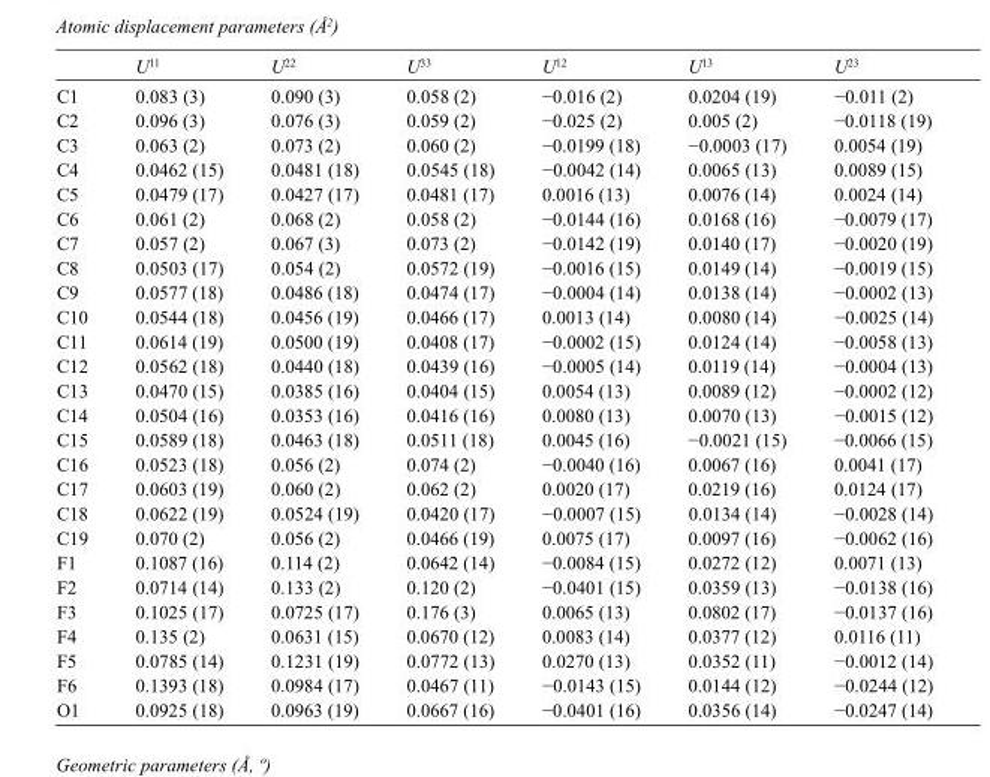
<table><thead><tr><td></td><td>U<sup>11</sup></td><td>U<sup>22</sup></td><td>U<sup>33</sup></td><td>U<sup>12</sup></td><td>U<sup>13</sup></td><td>U<sup>23</sup></td></tr></thead><tbody><tr><td>C1</td><td>0.083 (3)</td><td>0.090 (3)</td><td>0.058 (2)</td><td>−0.016 (2)</td><td>0.0204 (19)</td><td>−0.011 (2)</td></tr><tr><td>C2</td><td>0.096 (3)</td><td>0.076 (3)</td><td>0.059 (2)</td><td>−0.025 (2)</td><td>0.005 (2)</td><td>−0.0118 (19)</td></tr><tr><td>C3</td><td>0.063 (2)</td><td>0.073 (2)</td><td>0.060 (2)</td><td>−0.0199 (18)</td><td>−0.0003 (17)</td><td>0.0054 (19)</td></tr><tr><td>C4</td><td>0.0462 (15)</td><td>0.0481 (18)</td><td>0.0545 (18)</td><td>−0.0042 (14)</td><td>0.0065 (13)</td><td>0.0089 (15)</td></tr><tr><td>C5</td><td>0.0479 (17)</td><td>0.0427 (17)</td><td>0.0481 (17)</td><td>0.0016 (13)</td><td>0.0076 (14)</td><td>0.0024 (14)</td></tr><tr><td>C6</td><td>0.061 (2)</td><td>0.068 (2)</td><td>0.058 (2)</td><td>−0.0144 (16)</td><td>0.0168 (16)</td><td>−0.0079 (17)</td></tr><tr><td>C7</td><td>0.057 (2)</td><td>0.067 (3)</td><td>0.073 (2)</td><td>−0.0142 (19)</td><td>0.0140 (17)</td><td>−0.0020 (19)</td></tr><tr><td>C8</td><td>0.0503 (17)</td><td>0.054 (2)</td><td>0.0572 (19)</td><td>−0.0016 (15)</td><td>0.0149 (14)</td><td>−0.0019 (15)</td></tr><tr><td>C9</td><td>0.0577 (18)</td><td>0.0486 (18)</td><td>0.0474 (17)</td><td>−0.0004 (14)</td><td>0.0138 (14)</td><td>−0.0002 (13)</td></tr><tr><td>C10</td><td>0.0544 (18)</td><td>0.0456 (19)</td><td>0.0466 (17)</td><td>0.0013 (14)</td><td>0.0080 (14)</td><td>−0.0025 (14)</td></tr><tr><td>C11</td><td>0.0614 (19)</td><td>0.0500 (19)</td><td>0.0408 (17)</td><td>−0.0002 (15)</td><td>0.0124 (14)</td><td>−0.0058 (13)</td></tr><tr><td>C12</td><td>0.0562 (18)</td><td>0.0440 (18)</td><td>0.0439 (16)</td><td>−0.0005 (14)</td><td>0.0119 (14)</td><td>−0.0004 (13)</td></tr><tr><td>C13</td><td>0.0470 (15)</td><td>0.0385 (16)</td><td>0.0404 (15)</td><td>0.0054 (13)</td><td>0.0089 (12)</td><td>−0.0002 (12)</td></tr><tr><td>C14</td><td>0.0504 (16)</td><td>0.0353 (16)</td><td>0.0416 (16)</td><td>0.0080 (13)</td><td>0.0070 (13)</td><td>−0.0015 (12)</td></tr><tr><td>C15</td><td>0.0589 (18)</td><td>0.0463 (18)</td><td>0.0511 (18)</td><td>0.0045 (16)</td><td>−0.0021 (15)</td><td>−0.0066 (15)</td></tr><tr><td>C16</td><td>0.0523 (18)</td><td>0.056 (2)</td><td>0.074 (2)</td><td>−0.0040 (16)</td><td>0.0067 (16)</td><td>0.0041 (17)</td></tr><tr><td>C17</td><td>0.0603 (19)</td><td>0.060 (2)</td><td>0.062 (2)</td><td>0.0020 (17)</td><td>0.0219 (16)</td><td>0.0124 (17)</td></tr><tr><td>C18</td><td>0.0622 (19)</td><td>0.0524 (19)</td><td>0.0420 (17)</td><td>−0.0007 (15)</td><td>0.0134 (14)</td><td>−0.0028 (14)</td></tr><tr><td>C19</td><td>0.070 (2)</td><td>0.056 (2)</td><td>0.0466 (19)</td><td>0.0075 (17)</td><td>0.0097 (16)</td><td>−0.0062 (16)</td></tr><tr><td>F1</td><td>0.1087 (16)</td><td>0.114 (2)</td><td>0.0642 (14)</td><td>−0.0084 (15)</td><td>0.0272 (12)</td><td>0.0071 (13)</td></tr><tr><td>F2</td><td>0.0714 (14)</td><td>0.133 (2)</td><td>0.120 (2)</td><td>−0.0401 (15)</td><td>0.0359 (13)</td><td>−0.0138 (16)</td></tr><tr><td>F3</td><td>0.1025 (17)</td><td>0.0725 (17)</td><td>0.176 (3)</td><td>0.0065 (13)</td><td>0.0802 (17)</td><td>−0.0137 (16)</td></tr><tr><td>F4</td><td>0.135 (2)</td><td>0.0631 (15)</td><td>0.0670 (12)</td><td>0.0083 (14)</td><td>0.0377 (12)</td><td>0.0116 (11)</td></tr><tr><td>F5</td><td>0.0785 (14)</td><td>0.1231 (19)</td><td>0.0772 (13)</td><td>0.0270 (13)</td><td>0.0352 (11)</td><td>−0.0012 (14)</td></tr><tr><td>F6</td><td>0.1393 (18)</td><td>0.0984 (17)</td><td>0.0467 (11)</td><td>−0.0143 (15)</td><td>0.0144 (12)</td><td>−0.0244 (12)</td></tr><tr><td>O1</td><td>0.0925 (18)</td><td>0.0963 (19)</td><td>0.0667 (16)</td><td>−0.0401 (16)</td><td>0.0356 (14)</td><td>−0.0247 (14)</td></tr></tbody></table>